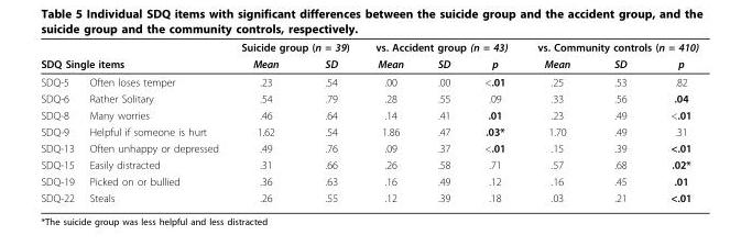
<table><thead><tr><td></td><td></td><td colspan="2">Suicide group (n = 39)</td><td colspan="3">vs. Accident group (n = 43)</td><td colspan="3">vs. Community controls (n = 410)</td></tr><tr><td colspan="2">SDQ Single items</td><td>Mean</td><td>SD</td><td>Mean</td><td>SD</td><td>p</td><td>Mean</td><td>SD</td><td>p</td></tr></thead><tbody><tr><td>SDQ-5</td><td>Often loses temper</td><td>.23</td><td>.54</td><td>.00</td><td>.00</td><td>&lt;.01</td><td>.25</td><td>.53</td><td>.82</td></tr><tr><td>SDQ-6</td><td>Rather Solitary</td><td>.54</td><td>.79</td><td>.28</td><td>.55</td><td>.09</td><td>.33</td><td>.56</td><td>.04</td></tr><tr><td>SDQ-8</td><td>Many worries</td><td>.46</td><td>.64</td><td>.14</td><td>.41</td><td>.01</td><td>.23</td><td>.49</td><td>&lt;.01</td></tr><tr><td>SDQ-9</td><td>Helpful if someone is hurt</td><td>1.62</td><td>.54</td><td>1.86</td><td>.47</td><td>.03*</td><td>1.70</td><td>.49</td><td>.31</td></tr><tr><td>SDQ-13</td><td>Often unhappy or depressed</td><td>.49</td><td>.76</td><td>.09</td><td>.37</td><td>&lt;.01</td><td>.15</td><td>.39</td><td>&lt;.01</td></tr><tr><td>SDQ-15</td><td>Easily distracted</td><td>.31</td><td>.66</td><td>.26</td><td>.58</td><td>.71</td><td>.57</td><td>.68</td><td>.02*</td></tr><tr><td>SDQ-19</td><td>Picked on or bullied</td><td>.36</td><td>.63</td><td>.16</td><td>.49</td><td>.12</td><td>.16</td><td>.45</td><td>.01</td></tr><tr><td>SDQ-22</td><td>Steals</td><td>.26</td><td>.55</td><td>.12</td><td>.39</td><td>.18</td><td>.03</td><td>.21</td><td>&lt;.01</td></tr></tbody></table>